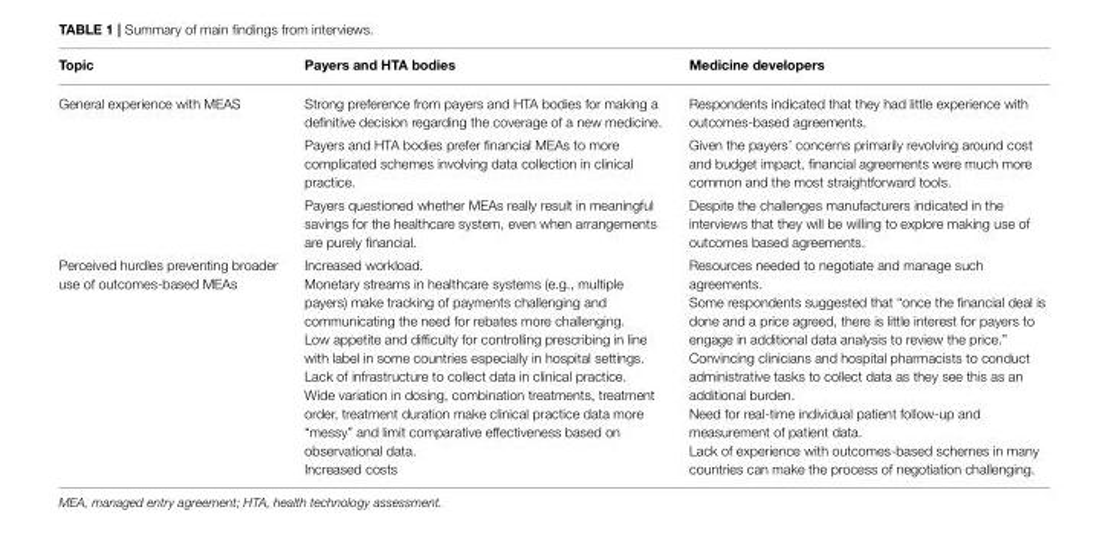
<table><thead><tr><td>Topic</td><td>Payers and HTA bodies</td><td>Medicine developers</td></tr></thead><tbody><tr><td rowspan="3">General experience with MEAS</td><td>Strong preference from payers and HTA bodies for making a definitive decision regarding the coverage of a new medicine.</td><td>Respondents indicated that they had little experience with outcomes-based agreements.</td></tr><tr><td>Payers and HTA bodies prefer financial MEAs to more complicated schemes involving data collection in clinical practice.</td><td>Given the payers’ concerns primarily revolving around cost and budget impact, financial agreements were much more common and the most straightforward tools.</td></tr><tr><td>Payers questioned whether MEAs really result in meaningful savings for the healthcare system, even when arrangements are purely financial.</td><td>Despite the challenges manufacturers indicated in the interviews that they will be willing to explore making use of outcomes based agreements.</td></tr><tr><td>Perceived hurdles preventing broader use of outcomes-based MEAs</td><td>Increased workload. Monetary streams in healthcare systems (e.g., multiple payers) make tracking of payments challenging and communicating the need for rebates more challenging. Low appetite and difficulty for controlling prescribing in line with label in some countries especially in hospital settings. Lack of infrastructure to collect data in clinical practice. Wide variation in dosing, combination treatments, treatment order, treatment duration make clinical practice data more “messy” and limit comparative effectiveness based on observational data. Increased costs</td><td>Resources needed to negotiate and manage such agreements. Some respondents suggested that “once the financial deal is done and a price agreed, there is little interest for payers to engage in additional data analysis to review the price.” Convincing clinicians and hospital pharmacists to conduct administrative tasks to collect data as they see this as an additional burden. Need for real-time individual patient follow-up and measurement of patient data. Lack of experience with outcomes-based schemes in many countries can make the process of negotiation challenging.</td></tr></tbody></table>